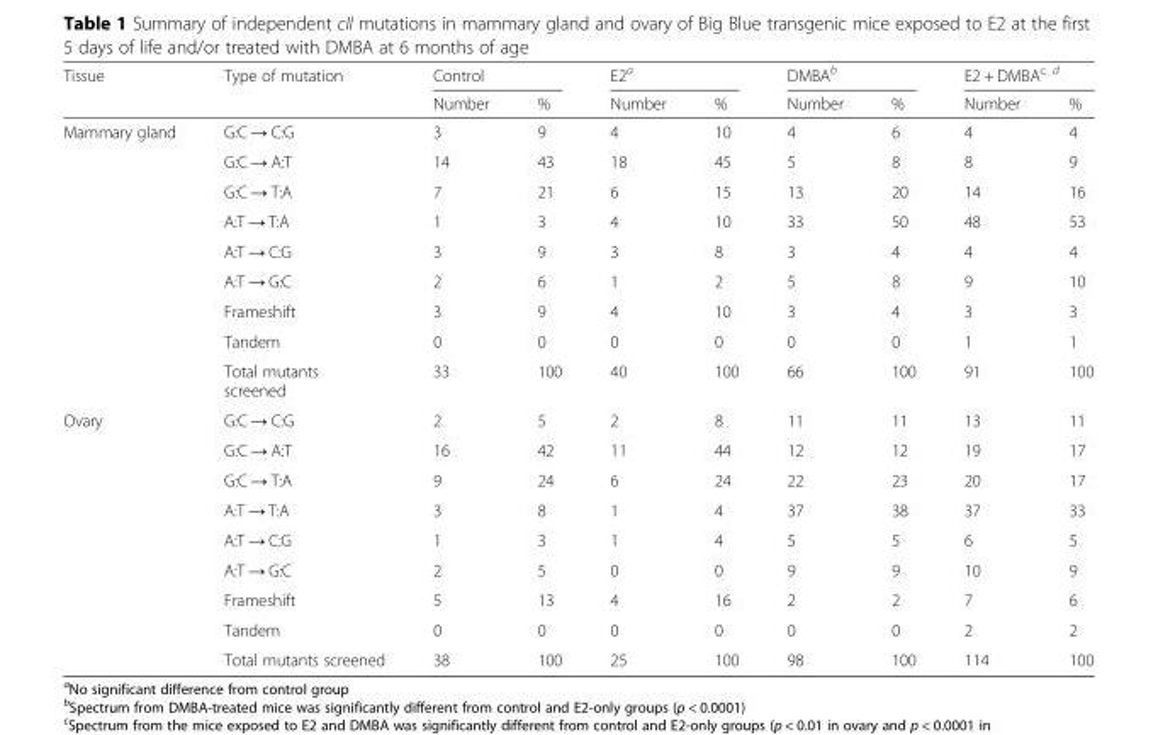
<table><thead><tr><td rowspan="2">Tissue</td><td rowspan="2">Type of mutation</td><td colspan="2">Control</td><td colspan="2">E2<sup>a</sup></td><td colspan="2">DMBA<sup>b</sup></td><td colspan="2">E2 + DMBA<sup>c, d</sup></td></tr><tr><td>Number</td><td>%</td><td>Number</td><td>%</td><td>Number</td><td>%</td><td>Number</td><td>%</td></tr></thead><tbody><tr><td rowspan="9">Mammary gland</td><td>G:C → C:G</td><td>3</td><td>9</td><td>4</td><td>10</td><td>4</td><td>6</td><td>4</td><td>4</td></tr><tr><td>G:C → A:T</td><td>14</td><td>43</td><td>18</td><td>45</td><td>5</td><td>8</td><td>8</td><td>9</td></tr><tr><td>G:C → T:A</td><td>7</td><td>21</td><td>6</td><td>15</td><td>13</td><td>20</td><td>14</td><td>16</td></tr><tr><td>A:T → T:A</td><td>1</td><td>3</td><td>4</td><td>10</td><td>33</td><td>50</td><td>48</td><td>53</td></tr><tr><td>A:T → C:G</td><td>3</td><td>9</td><td>3</td><td>8</td><td>3</td><td>4</td><td>4</td><td>4</td></tr><tr><td>A:T → G:C</td><td>2</td><td>6</td><td>1</td><td>2</td><td>5</td><td>8</td><td>9</td><td>10</td></tr><tr><td>Frameshift</td><td>3</td><td>9</td><td>4</td><td>10</td><td>3</td><td>4</td><td>3</td><td>3</td></tr><tr><td>Tandem</td><td>0</td><td>0</td><td>0</td><td>0</td><td>0</td><td>0</td><td>1</td><td>1</td></tr><tr><td>Total mutants screened</td><td>33</td><td>100</td><td>40</td><td>100</td><td>66</td><td>100</td><td>91</td><td>100</td></tr><tr><td rowspan="9">Ovary</td><td>G:C → C:G</td><td>2</td><td>5</td><td>2</td><td>8</td><td>11</td><td>11</td><td>13</td><td>11</td></tr><tr><td>G:C → A:T</td><td>16</td><td>42</td><td>11</td><td>44</td><td>12</td><td>12</td><td>19</td><td>17</td></tr><tr><td>G:C → T:A</td><td>9</td><td>24</td><td>6</td><td>24</td><td>22</td><td>23</td><td>20</td><td>17</td></tr><tr><td>A:T → T:A</td><td>3</td><td>8</td><td>1</td><td>4</td><td>37</td><td>38</td><td>37</td><td>33</td></tr><tr><td>A:T → C:G</td><td>1</td><td>3</td><td>1</td><td>4</td><td>5</td><td>5</td><td>6</td><td>5</td></tr><tr><td>A:T → G:C</td><td>2</td><td>5</td><td>0</td><td>0</td><td>9</td><td>9</td><td>10</td><td>9</td></tr><tr><td>Frameshift</td><td>5</td><td>13</td><td>4</td><td>16</td><td>2</td><td>2</td><td>7</td><td>6</td></tr><tr><td>Tandem</td><td>0</td><td>0</td><td>0</td><td>0</td><td>0</td><td>0</td><td>2</td><td>2</td></tr><tr><td>Total mutants screened</td><td>38</td><td>100</td><td>25</td><td>100</td><td>98</td><td>100</td><td>114</td><td>100</td></tr></tbody></table>